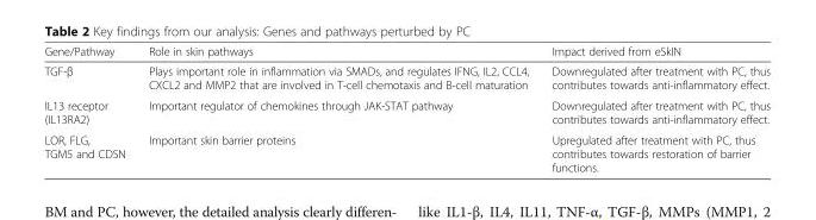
<table><thead><tr><td>Gene/Pathway</td><td>Role in skin pathways</td><td>Impact derived from eSkIN</td></tr></thead><tbody><tr><td>TGF-β</td><td>Plays important role in inflammation via SMADs, and regulates IFNG, IL2, CCL4, CXCL2 and MMP2 that are involved in T-cell chemotaxis and B-cell maturation</td><td>Downregulated after treatment with PC, thus contributes towards anti-inflammatory effect.</td></tr><tr><td>IL13 receptor (IL13RA2)</td><td>Important regulator of chemokines through JAK-STAT pathway</td><td>Downregulated after treatment with PC, thus contributes towards anti-inflammatory effect.</td></tr><tr><td>LOR, FLG, TGM5 and CDSN</td><td>Important skin barrier proteins</td><td>Upregulated after treatment with PC, thus contributes towards restoration of barrier functions.</td></tr></tbody></table>